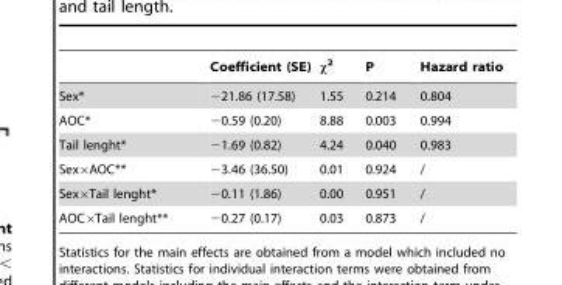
<table><thead><tr><td></td><td>Coefficient (SE)</td><td>χ<sup>2</sup></td><td>P</td><td>Hazard ratio</td></tr></thead><tbody><tr><td>Sex*</td><td>−21.86 (17.58)</td><td>1.55</td><td>0.214</td><td>0.804</td></tr><tr><td>AOC*</td><td>−0.59 (0.20)</td><td>8.88</td><td>0.003</td><td>0.994</td></tr><tr><td>Tail lenght*</td><td>−1.69 (0.82)</td><td>4.24</td><td>0.040</td><td>0.983</td></tr><tr><td>Sex×AOC**</td><td>−3.46 (36.50)</td><td>0.01</td><td>0.924</td><td>/</td></tr><tr><td>Sex×Tail lenght*</td><td>−0.11 (1.86)</td><td>0.00</td><td>0.951</td><td>/</td></tr><tr><td>AOC×Tail lenght**</td><td>−0.27 (0.17)</td><td>0.03</td><td>0.873</td><td>/</td></tr></tbody></table>